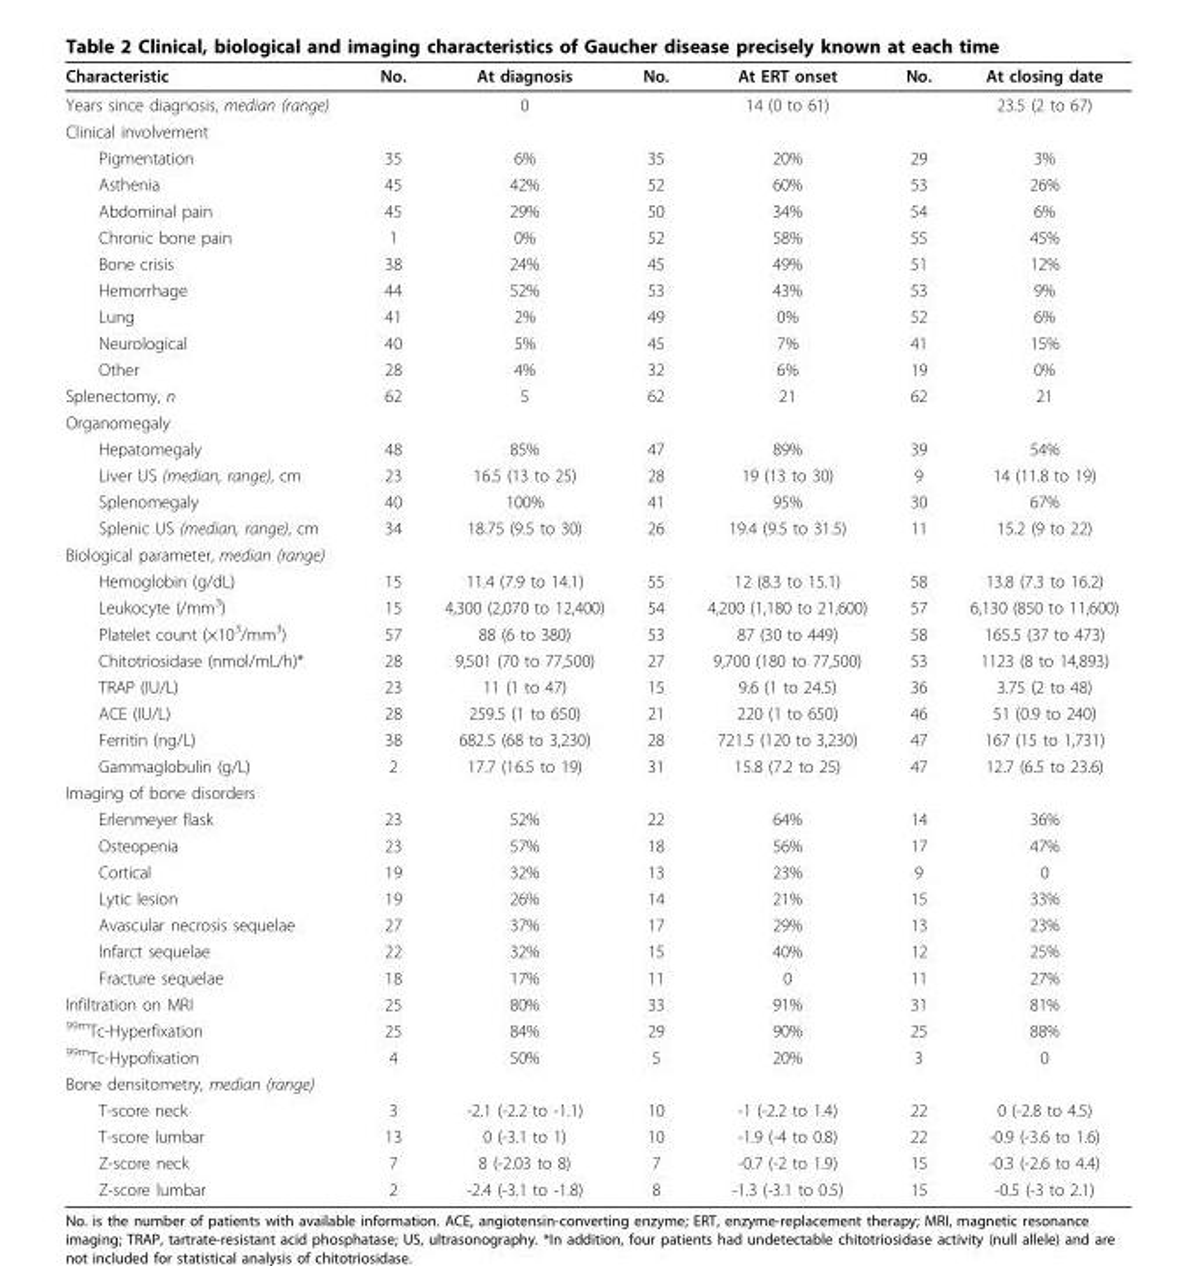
<table><thead><tr><td>Characteristic</td><td>No.</td><td>At diagnosis</td><td>No.</td><td>At ERT onset</td><td>No.</td><td>At closing date</td></tr></thead><tbody><tr><td>Years since diagnosis, median (range)</td><td></td><td>0</td><td></td><td>14 (0 to 61)</td><td></td><td>23.5 (2 to 67)</td></tr><tr><td colspan="7">Clinical involvement</td></tr><tr><td>Pigmentation</td><td>35</td><td>6%</td><td>35</td><td>20%</td><td>29</td><td>3%</td></tr><tr><td>Asthenia</td><td>45</td><td>42%</td><td>52</td><td>60%</td><td>53</td><td>26%</td></tr><tr><td>Abdominal pain</td><td>45</td><td>29%</td><td>50</td><td>34%</td><td>54</td><td>6%</td></tr><tr><td>Chronic bone pain</td><td>1</td><td>0%</td><td>52</td><td>58%</td><td>55</td><td>45%</td></tr><tr><td>Bone crisis</td><td>38</td><td>24%</td><td>45</td><td>49%</td><td>51</td><td>12%</td></tr><tr><td>Hemorrhage</td><td>44</td><td>52%</td><td>53</td><td>43%</td><td>53</td><td>9%</td></tr><tr><td>Lung</td><td>41</td><td>2%</td><td>49</td><td>0%</td><td>52</td><td>6%</td></tr><tr><td>Neurological</td><td>40</td><td>5%</td><td>45</td><td>7%</td><td>41</td><td>15%</td></tr><tr><td>Other</td><td>28</td><td>4%</td><td>32</td><td>6%</td><td>19</td><td>0%</td></tr><tr><td>Splenectomy, n</td><td>62</td><td>5</td><td>62</td><td>21</td><td>62</td><td>21</td></tr><tr><td colspan="7">Organomegaly</td></tr><tr><td>Hepatomegaly</td><td>48</td><td>85%</td><td>47</td><td>89%</td><td>39</td><td>54%</td></tr><tr><td>Liver US (median, range), cm</td><td>23</td><td>16.5 (13 to 25)</td><td>28</td><td>19 (13 to 30)</td><td>9</td><td>14 (11.8 to 19)</td></tr><tr><td>Splenomegaly</td><td>40</td><td>100%</td><td>41</td><td>95%</td><td>30</td><td>67%</td></tr><tr><td>Splenic US (median, range), cm</td><td>34</td><td>18.75 (9.5 to 30)</td><td>26</td><td>19.4 (9.5 to 31.5)</td><td>11</td><td>15.2 (9 to 22)</td></tr><tr><td colspan="7">Biological parameter, median (range)</td></tr><tr><td>Hemoglobin (g/dL)</td><td>15</td><td>11.4 (7.9 to 14.1)</td><td>55</td><td>12 (8.3 to 15.1)</td><td>58</td><td>13.8 (7.3 to 16.2)</td></tr><tr><td>Leukocyte (/mm<sup>3</sup>)</td><td>15</td><td>4,300 (2,070 to 12,400)</td><td>54</td><td>4,200 (1,180 to 21,600)</td><td>57</td><td>6,130 (850 to 11,600)</td></tr><tr><td>Platelet count (×10<sup>3</sup>/mm<sup>3</sup>)</td><td>57</td><td>88 (6 to 380)</td><td>53</td><td>87 (30 to 449)</td><td>58</td><td>165.5 (37 to 473)</td></tr><tr><td>Chitotriosidase (nmol/mL/h)*</td><td>28</td><td>9,501 (70 to 77,500)</td><td>27</td><td>9,700 (180 to 77,500)</td><td>53</td><td>1123 (8 to 14,893)</td></tr><tr><td>TRAP (IU/L)</td><td>23</td><td>11 (1 to 47)</td><td>15</td><td>9.6 (1 to 24.5)</td><td>36</td><td>3.75 (2 to 48)</td></tr><tr><td>ACE (IU/L)</td><td>28</td><td>259.5 (1 to 650)</td><td>21</td><td>220 (1 to 650)</td><td>46</td><td>51 (0.9 to 240)</td></tr><tr><td>Ferritin (ng/L)</td><td>38</td><td>682.5 (68 to 3,230)</td><td>28</td><td>721.5 (120 to 3,230)</td><td>47</td><td>167 (15 to 1,731)</td></tr><tr><td>Gammaglobulin (g/L)</td><td>2</td><td>17.7 (16.5 to 19)</td><td>31</td><td>15.8 (7.2 to 25)</td><td>47</td><td>12.7 (6.5 to 23.6)</td></tr><tr><td colspan="7">Imaging of bone disorders</td></tr><tr><td>Erlenmeyer flask</td><td>23</td><td>52%</td><td>22</td><td>64%</td><td>14</td><td>36%</td></tr><tr><td>Osteopenia</td><td>23</td><td>57%</td><td>18</td><td>56%</td><td>17</td><td>47%</td></tr><tr><td>Cortical</td><td>19</td><td>32%</td><td>13</td><td>23%</td><td>9</td><td>0</td></tr><tr><td>Lytic lesion</td><td>19</td><td>26%</td><td>14</td><td>21%</td><td>15</td><td>33%</td></tr><tr><td>Avascular necrosis sequelae</td><td>27</td><td>37%</td><td>17</td><td>29%</td><td>13</td><td>23%</td></tr><tr><td>Infarct sequelae</td><td>22</td><td>32%</td><td>15</td><td>40%</td><td>12</td><td>25%</td></tr><tr><td>Fracture sequelae</td><td>18</td><td>17%</td><td>11</td><td>0</td><td>11</td><td>27%</td></tr><tr><td>Infiltration on MRI</td><td>25</td><td>80%</td><td>33</td><td>91%</td><td>31</td><td>81%</td></tr><tr><td><sup>99m</sup>Tc-Hyperfixation</td><td>25</td><td>84%</td><td>29</td><td>90%</td><td>25</td><td>88%</td></tr><tr><td><sup>99m</sup>Tc-Hypofixation</td><td>4</td><td>50%</td><td>5</td><td>20%</td><td>3</td><td>0</td></tr><tr><td colspan="7">Bone densitometry, median (range)</td></tr><tr><td>T-score neck</td><td>3</td><td>-2.1 (-2.2 to -1.1)</td><td>10</td><td>-1 (-2.2 to 1.4)</td><td>22</td><td>0 (-2.8 to 4.5)</td></tr><tr><td>T-score lumbar</td><td>13</td><td>0 (-3.1 to 1)</td><td>10</td><td>-1.9 (-4 to 0.8)</td><td>22</td><td>-0.9 (-3.6 to 1.6)</td></tr><tr><td>Z-score neck</td><td>7</td><td>8 (-2.03 to 8)</td><td>7</td><td>-0.7 (-2 to 1.9)</td><td>15</td><td>-0.3 (-2.6 to 4.4)</td></tr><tr><td>Z-score lumbar</td><td>2</td><td>-2.4 (-3.1 to -1.8)</td><td>8</td><td>-1.3 (-3.1 to 0.5)</td><td>15</td><td>-0.5 (-3 to 2.1)</td></tr></tbody></table>